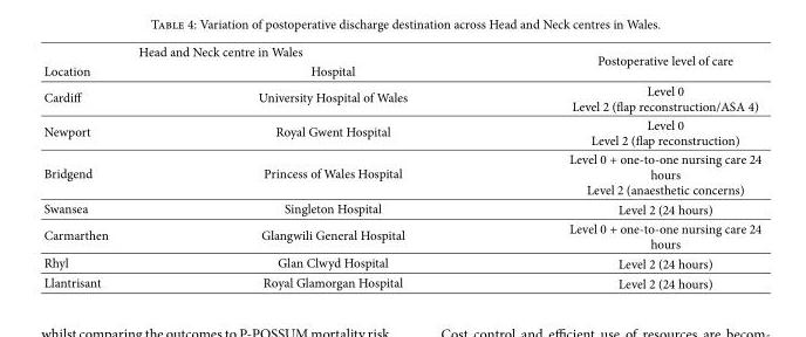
<table><thead><tr><td colspan="2">Head and Neck centre in Wales</td><td rowspan="2">Postoperative level of care</td></tr><tr><td>Location</td><td>Hospital</td></tr></thead><tbody><tr><td>Cardiff</td><td>University Hospital of Wales</td><td>Level 0 Level 2 (flap reconstruction/ASA 4)</td></tr><tr><td>Newport</td><td>Royal Gwent Hospital</td><td>Level 0 Level 2 (flap reconstruction)</td></tr><tr><td>Bridgend</td><td>Princess of Wales Hospital</td><td>Level 0 + one-to-one nursing care 24 hours Level 2 (anaesthetic concerns)</td></tr><tr><td>Swansea</td><td>Singleton Hospital</td><td>Level 2 (24 hours)</td></tr><tr><td>Carmarthen</td><td>Glangwili General Hospital</td><td>Level 0 + one-to-one nursing care 24 hours</td></tr><tr><td>Rhyl</td><td>Glan Clwyd Hospital</td><td>Level 2 (24 hours)</td></tr><tr><td>Llantrisant</td><td>Royal Glamorgan Hospital</td><td>Level 2 (24 hours)</td></tr></tbody></table>